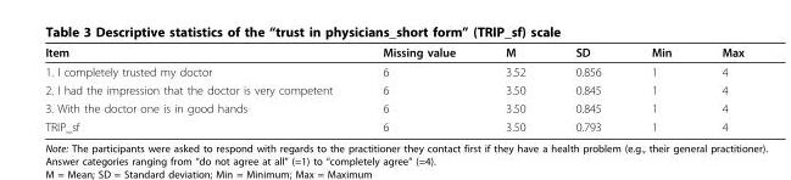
<table><thead><tr><td>Item</td><td>Missing value</td><td>M</td><td>SD</td><td>Min</td><td>Max</td></tr></thead><tbody><tr><td>1. I completely trusted my doctor</td><td>6</td><td>3.52</td><td>0.856</td><td>1</td><td>4</td></tr><tr><td>2. I had the impression that the doctor is very competent</td><td>6</td><td>3.50</td><td>0.845</td><td>1</td><td>4</td></tr><tr><td>3. With the doctor one is in good hands</td><td>6</td><td>3.50</td><td>0.845</td><td>1</td><td>4</td></tr><tr><td>TRIP_sf</td><td>6</td><td>3.50</td><td>0.793</td><td>1</td><td>4</td></tr></tbody></table>